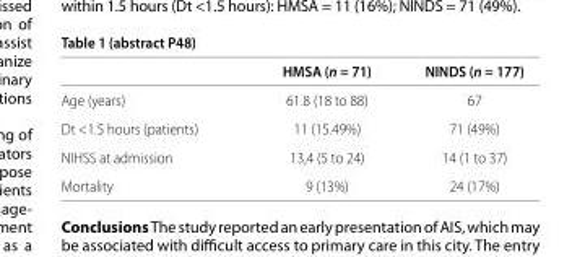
<table><thead><tr><td></td><td>HMSA (n = 71)</td><td>NINDS (n = 177)</td></tr></thead><tbody><tr><td>Age (years)</td><td>61.8 (18 to 88)</td><td>67</td></tr><tr><td>Dt &lt;1.5 hours (patients)</td><td>11 (15.49%)</td><td>71 (49%)</td></tr><tr><td>NIHSS at admission</td><td>13,4 (5 to 24)</td><td>14 (1 to 37)</td></tr><tr><td>Mortality</td><td>9 (13%)</td><td>24 (17%)</td></tr></tbody></table>